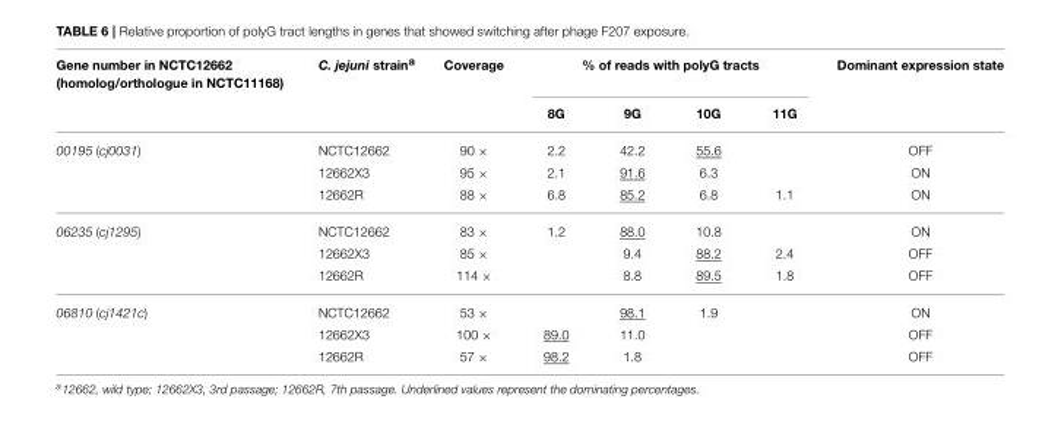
<table><thead><tr><td rowspan="2">Gene number in NCTC12662 (homolog/orthologue in NCTC11168)</td><td rowspan="2">C. jejuni strain<sup>a</sup></td><td rowspan="2">Coverage</td><td colspan="4">% of reads with polyG tracts</td><td rowspan="2">Dominant expression state</td></tr><tr><td>8G</td><td>9G</td><td>10G</td><td>11G</td></tr></thead><tbody><tr><td rowspan="3">00195 (cj0031)</td><td>NCTC12662</td><td>90 ×</td><td>2.2</td><td>42.2</td><td>55.6</td><td></td><td>OFF</td></tr><tr><td>12662X3</td><td>95 ×</td><td>2.1</td><td>91.6</td><td>6.3</td><td></td><td>ON</td></tr><tr><td>12662R</td><td>88 ×</td><td>6.8</td><td>85.2</td><td>6.8</td><td>1.1</td><td>ON</td></tr><tr><td rowspan="3">06235 (cj1295)</td><td>NCTC12662</td><td>83 ×</td><td>1.2</td><td>88.0</td><td>10.8</td><td></td><td>ON</td></tr><tr><td>12662X3</td><td>85 ×</td><td></td><td>9.4</td><td>88.2</td><td>2.4</td><td>OFF</td></tr><tr><td>12662R</td><td>114 ×</td><td></td><td>8.8</td><td>89.5</td><td>1.8</td><td>OFF</td></tr><tr><td rowspan="3">06810 (cj1421c)</td><td>NCTC12662</td><td>53 ×</td><td></td><td>98.1</td><td>1.9</td><td></td><td>ON</td></tr><tr><td>12662X3</td><td>100 ×</td><td>89.0</td><td>11.0</td><td></td><td></td><td>OFF</td></tr><tr><td>12662R</td><td>57 ×</td><td>98.2</td><td>1.8</td><td></td><td></td><td>OFF</td></tr></tbody></table>